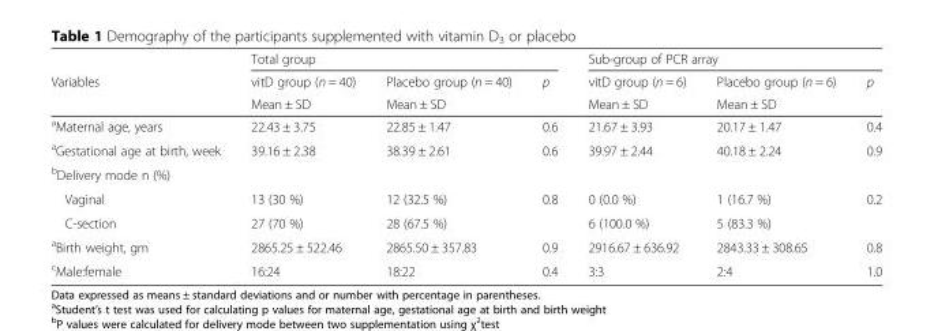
<table><thead><tr><td rowspan="3">Variables</td><td colspan="3">Total group</td><td colspan="3">Sub-group of PCR array</td></tr><tr><td rowspan="2">vitD group (n = 40) Mean ± SD</td><td rowspan="2">Placebo group (n = 40) Mean ± SD</td><td rowspan="2">p</td><td rowspan="2">vitD group (n = 6) Mean ± SD</td><td rowspan="2">Placebo group (n = 6) Mean ± SD</td><td rowspan="2">p</td></tr><tr></tr></thead><tbody><tr><td><sup>a</sup>Maternal age, years</td><td>22.43 ± 3.75</td><td>22.85 ± 1.47</td><td>0.6</td><td>21.67 ± 3.93</td><td>20.17 ± 1.47</td><td>0.4</td></tr><tr><td><sup>a</sup>Gestational age at birth, week</td><td>39.16 ± 2.38</td><td>38.39 ± 2.61</td><td>0.6</td><td>39.97 ± 2.44</td><td>40.18 ± 2.24</td><td>0.9</td></tr><tr><td colspan="7"><sup>b</sup>Delivery mode n (%)</td></tr><tr><td>Vaginal</td><td>13 (30 %)</td><td>12 (32.5 %)</td><td rowspan="2">0.8</td><td>0 (0.0 %)</td><td>1 (16.7 %)</td><td rowspan="2">0.2</td></tr><tr><td>C-section</td><td>27 (70 %)</td><td>28 (67.5 %)</td><td>6 (100.0 %)</td><td>5 (83.3 %)</td></tr><tr><td><sup>a</sup>Birth weight, gm</td><td>2865.25 ± 522.46</td><td>2865.50 ± 357.83</td><td>0.9</td><td>2916.67 ± 636.92</td><td>2843.33 ± 308.65</td><td>0.8</td></tr><tr><td><sup>c</sup>Male:female</td><td>16:24</td><td>18:22</td><td>0.4</td><td>3:3</td><td>2:4</td><td>1.0</td></tr></tbody></table>